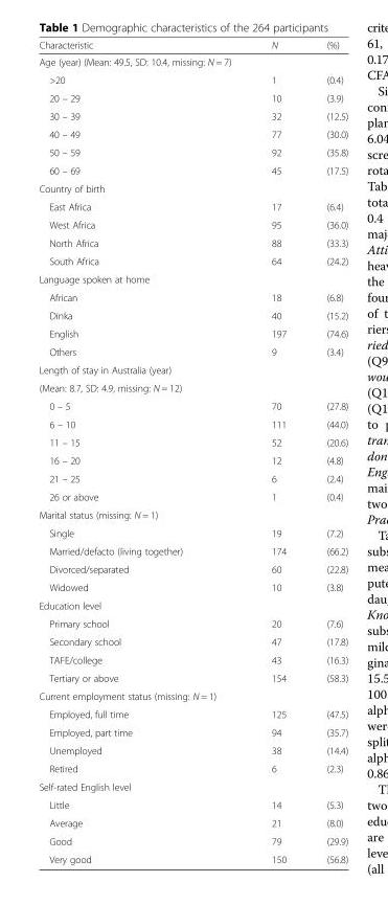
<table><thead><tr><td>Characteristic</td><td>N</td><td>(%)</td></tr></thead><tbody><tr><td colspan="3">Age (year) (Mean: 49.5, SD: 10.4, missing: N = 7)</td></tr><tr><td>&gt;20</td><td>1</td><td>(0.4)</td></tr><tr><td>20 – 29</td><td>10</td><td>(3.9)</td></tr><tr><td>30 – 39</td><td>32</td><td>(12.5)</td></tr><tr><td>40 – 49</td><td>77</td><td>(30.0)</td></tr><tr><td>50 – 59</td><td>92</td><td>(35.8)</td></tr><tr><td>60 – 69</td><td>45</td><td>(17.5)</td></tr><tr><td colspan="3">Country of birth</td></tr><tr><td>East Africa</td><td>17</td><td>(6.4)</td></tr><tr><td>West Africa</td><td>95</td><td>(36.0)</td></tr><tr><td>North Africa</td><td>88</td><td>(33.3)</td></tr><tr><td>South Africa</td><td>64</td><td>(24.2)</td></tr><tr><td colspan="3">Language spoken at home</td></tr><tr><td>African</td><td>18</td><td>(6.8)</td></tr><tr><td>Dinka</td><td>40</td><td>(15.2)</td></tr><tr><td>English</td><td>197</td><td>(74.6)</td></tr><tr><td>Others</td><td>9</td><td>(3.4)</td></tr><tr><td colspan="3">Length of stay in Australia (year)</td></tr><tr><td colspan="3">(Mean: 8.7, SD: 4.9, missing: N = 12)</td></tr><tr><td>0 – 5</td><td>70</td><td>(27.8)</td></tr><tr><td>6 – 10</td><td>111</td><td>(44.0)</td></tr><tr><td>11 – 15</td><td>52</td><td>(20.6)</td></tr><tr><td>16 – 20</td><td>12</td><td>(4.8)</td></tr><tr><td>21 – 25</td><td>6</td><td>(2.4)</td></tr><tr><td>26 or above</td><td>1</td><td>(0.4)</td></tr><tr><td colspan="3">Marital status (missing: N = 1)</td></tr><tr><td>Single</td><td>19</td><td>(7.2)</td></tr><tr><td>Married/defacto (living together)</td><td>174</td><td>(66.2)</td></tr><tr><td>Divorced/separated</td><td>60</td><td>(22.8)</td></tr><tr><td>Widowed</td><td>10</td><td>(3.8)</td></tr><tr><td colspan="3">Education level</td></tr><tr><td>Primary school</td><td>20</td><td>(7.6)</td></tr><tr><td>Secondary school</td><td>47</td><td>(17.8)</td></tr><tr><td>TAFE/college</td><td>43</td><td>(16.3)</td></tr><tr><td>Tertiary or above</td><td>154</td><td>(58.3)</td></tr><tr><td colspan="3">Current employment status (missing: N = 1)</td></tr><tr><td>Employed, full time</td><td>125</td><td>(47.5)</td></tr><tr><td>Employed, part time</td><td>94</td><td>(35.7)</td></tr><tr><td>Unemployed</td><td>38</td><td>(14.4)</td></tr><tr><td>Retired</td><td>6</td><td>(2.3)</td></tr><tr><td colspan="3">Self-rated English level</td></tr><tr><td>Little</td><td>14</td><td>(5.3)</td></tr><tr><td>Average</td><td>21</td><td>(8.0)</td></tr><tr><td>Good</td><td>79</td><td>(29.9)</td></tr><tr><td>Very good</td><td>150</td><td>(56.8)</td></tr></tbody></table>